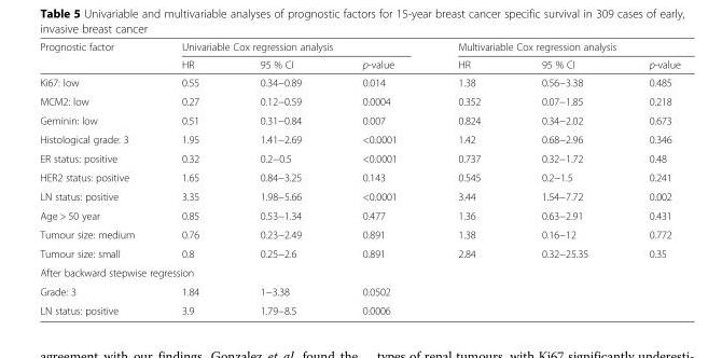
<table><thead><tr><td rowspan="2">Prognostic factor</td><td colspan="3">Univariable Cox regression analysis</td><td colspan="3">Multivariable Cox regression analysis</td></tr><tr><td>HR</td><td>95 % CI</td><td>p-value</td><td>HR</td><td>95 % CI</td><td>p-value</td></tr></thead><tbody><tr><td>Ki67: low</td><td>0.55</td><td>0.34−0.89</td><td>0.014</td><td>1.38</td><td>0.56−3.38</td><td>0.485</td></tr><tr><td>MCM2: low</td><td>0.27</td><td>0.12−0.59</td><td>0.0004</td><td>0.352</td><td>0.07−1.85</td><td>0.218</td></tr><tr><td>Geminin: low</td><td>0.51</td><td>0.31−0.84</td><td>0.007</td><td>0.824</td><td>0.34−2.02</td><td>0.673</td></tr><tr><td>Histological grade: 3</td><td>1.95</td><td>1.41−2.69</td><td>&lt;0.0001</td><td>1.42</td><td>0.68−2.96</td><td>0.346</td></tr><tr><td>ER status: positive</td><td>0.32</td><td>0.2−0.5</td><td>&lt;0.0001</td><td>0.737</td><td>0.32−1.72</td><td>0.48</td></tr><tr><td>HER2 status: positive</td><td>1.65</td><td>0.84−3.25</td><td>0.143</td><td>0.545</td><td>0.2−1.5</td><td>0.241</td></tr><tr><td>LN status: positive</td><td>3.35</td><td>1.98−5.66</td><td>&lt;0.0001</td><td>3.44</td><td>1.54−7.72</td><td>0.002</td></tr><tr><td>Age &gt; 50 year</td><td>0.85</td><td>0.53−1.34</td><td>0.477</td><td>1.36</td><td>0.63−2.91</td><td>0.431</td></tr><tr><td>Tumour size: medium</td><td>0.76</td><td>0.23−2.49</td><td>0.891</td><td>1.38</td><td>0.16−12</td><td>0.772</td></tr><tr><td>Tumour size: small</td><td>0.8</td><td>0.25−2.6</td><td>0.891</td><td>2.84</td><td>0.32−25.35</td><td>0.35</td></tr><tr><td colspan="4">After backward stepwise regression</td><td rowspan="3" colspan="3"></td></tr><tr><td>Grade: 3</td><td>1.84</td><td>1−3.38</td><td>0.0502</td></tr><tr><td>LN status: positive</td><td>3.9</td><td>1.79−8.5</td><td>0.0006</td></tr></tbody></table>